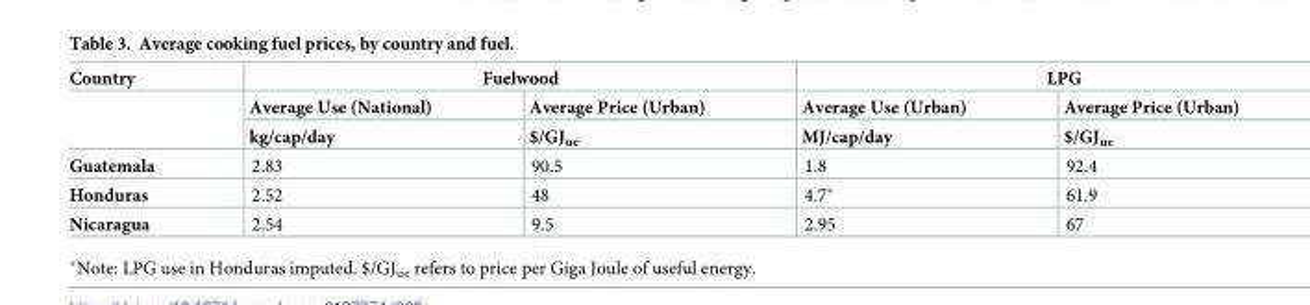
<table><thead><tr><td rowspan="3">Country</td><td colspan="2">Fuelwood</td><td colspan="2">LPG</td></tr><tr><td rowspan="2">Average Use (National) kg/cap/day</td><td rowspan="2">Average Price (Urban) $/GJ<sub>ue</sub></td><td rowspan="2">Average Use (Urban) MJ/cap/day</td><td rowspan="2">Average Price (Urban) $/GJ<sub>ue</sub></td></tr><tr></tr></thead><tbody><tr><td>Guatemala</td><td>2.83</td><td>90.5</td><td>1.8</td><td>92.4</td></tr><tr><td>Honduras</td><td>2.52</td><td>48</td><td>4.7*</td><td>61.9</td></tr><tr><td>Nicaragua</td><td>2.54</td><td>9.5</td><td>2.95</td><td>67</td></tr></tbody></table>